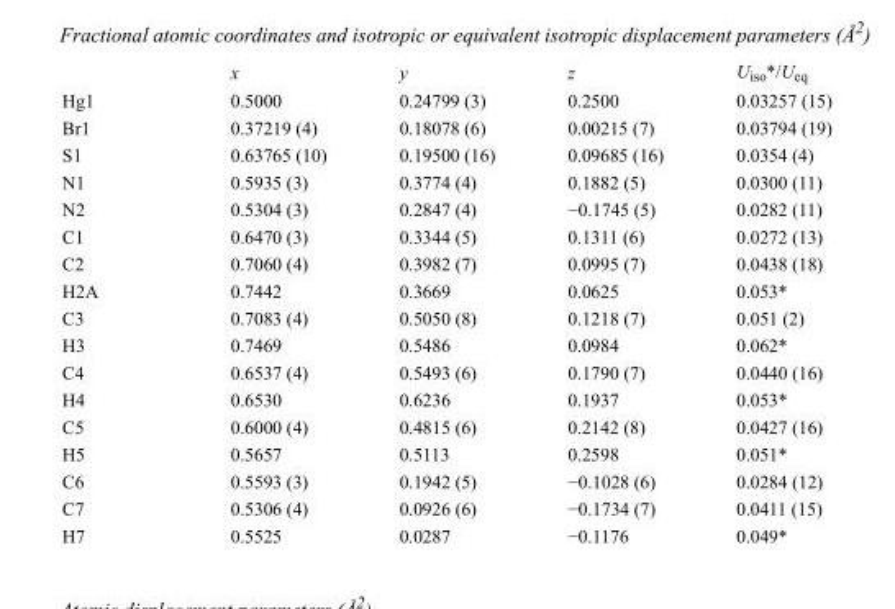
<table><thead><tr><td></td><td>x</td><td>y</td><td>z</td><td>U<sub>iso</sub>*/U<sub>eq</sub></td></tr></thead><tbody><tr><td>Hg1</td><td>0.5000</td><td>0.24799 (3)</td><td>0.2500</td><td>0.03257 (15)</td></tr><tr><td>Br1</td><td>0.37219 (4)</td><td>0.18078 (6)</td><td>0.00215 (7)</td><td>0.03794 (19)</td></tr><tr><td>S1</td><td>0.63765 (10)</td><td>0.19500 (16)</td><td>0.09685 (16)</td><td>0.0354 (4)</td></tr><tr><td>N1</td><td>0.5935 (3)</td><td>0.3774 (4)</td><td>0.1882 (5)</td><td>0.0300 (11)</td></tr><tr><td>N2</td><td>0.5304 (3)</td><td>0.2847 (4)</td><td>−0.1745 (5)</td><td>0.0282 (11)</td></tr><tr><td>C1</td><td>0.6470 (3)</td><td>0.3344 (5)</td><td>0.1311 (6)</td><td>0.0272 (13)</td></tr><tr><td>C2</td><td>0.7060 (4)</td><td>0.3982 (7)</td><td>0.0995 (7)</td><td>0.0438 (18)</td></tr><tr><td>H2A</td><td>0.7442</td><td>0.3669</td><td>0.0625</td><td>0.053*</td></tr><tr><td>C3</td><td>0.7083 (4)</td><td>0.5050 (8)</td><td>0.1218 (7)</td><td>0.051 (2)</td></tr><tr><td>H3</td><td>0.7469</td><td>0.5486</td><td>0.0984</td><td>0.062*</td></tr><tr><td>C4</td><td>0.6537 (4)</td><td>0.5493 (6)</td><td>0.1790 (7)</td><td>0.0440 (16)</td></tr><tr><td>H4</td><td>0.6530</td><td>0.6236</td><td>0.1937</td><td>0.053*</td></tr><tr><td>C5</td><td>0.6000 (4)</td><td>0.4815 (6)</td><td>0.2142 (8)</td><td>0.0427 (16)</td></tr><tr><td>H5</td><td>0.5657</td><td>0.5113</td><td>0.2598</td><td>0.051*</td></tr><tr><td>C6</td><td>0.5593 (3)</td><td>0.1942 (5)</td><td>−0.1028 (6)</td><td>0.0284 (12)</td></tr><tr><td>C7</td><td>0.5306 (4)</td><td>0.0926 (6)</td><td>−0.1734 (7)</td><td>0.0411 (15)</td></tr><tr><td>H7</td><td>0.5525</td><td>0.0287</td><td>−0.1176</td><td>0.049*</td></tr></tbody></table>